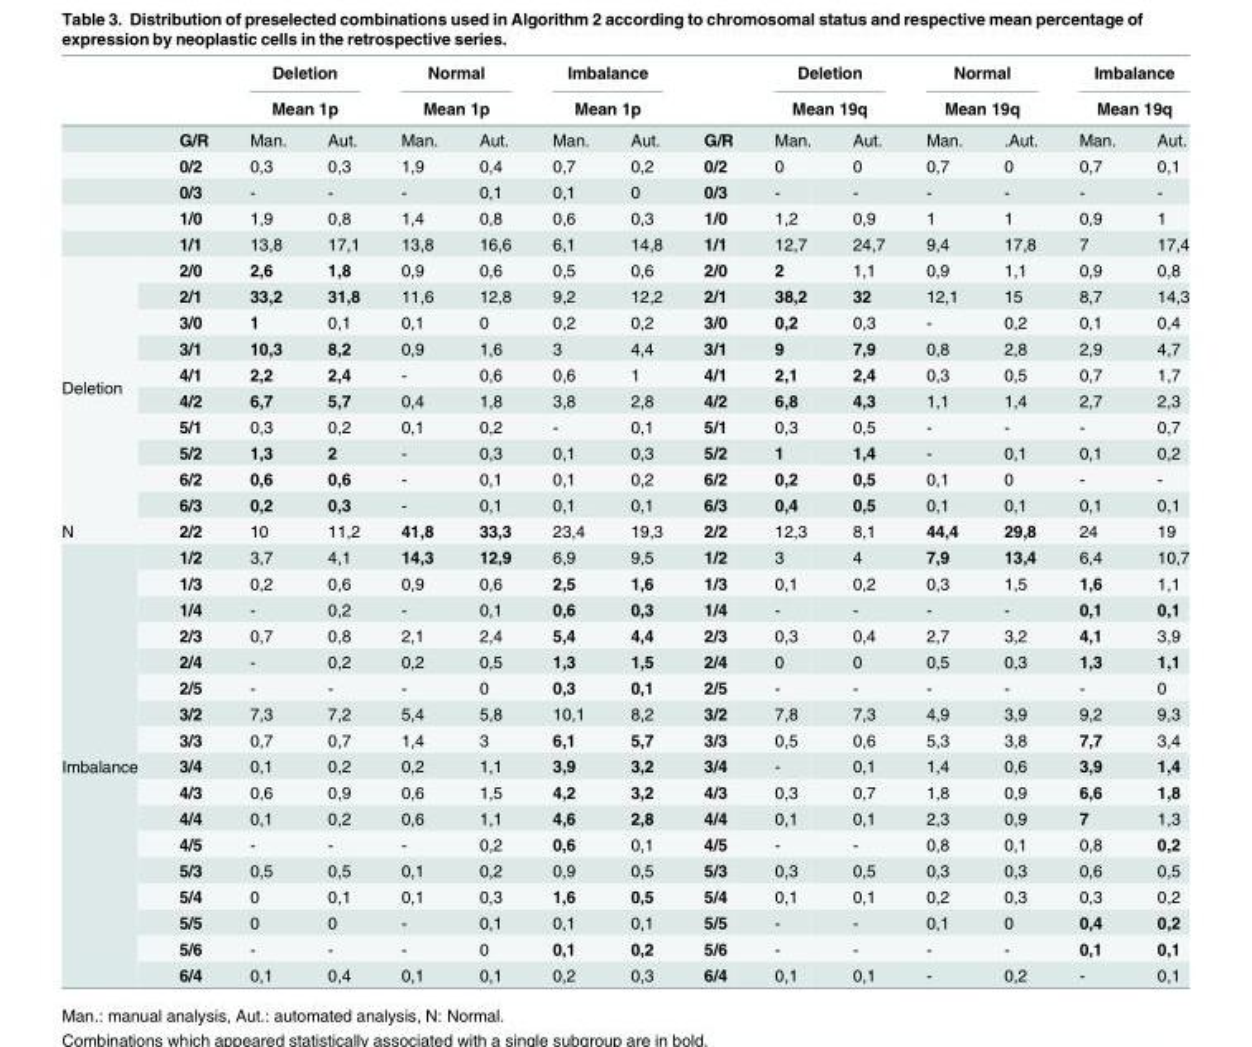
<table><thead><tr><td rowspan="3"></td><td rowspan="3">G/R</td><td rowspan="2" colspan="2">Deletion Mean 1p</td><td rowspan="2" colspan="2">Normal Mean 1p</td><td rowspan="2" colspan="2">Imbalance Mean 1p</td><td rowspan="3">G/R</td><td rowspan="2" colspan="2">Deletion Mean 19q</td><td rowspan="2" colspan="2">Normal Mean 19q</td><td rowspan="2" colspan="2">Imbalance Mean 19q</td></tr><tr></tr><tr><td>Man.</td><td>Aut.</td><td>Man.</td><td>Aut.</td><td>Man.</td><td>Aut.</td><td>Man.</td><td>Aut.</td><td>Man.</td><td>.Aut.</td><td>Man.</td><td>Aut.</td></tr></thead><tbody><tr><td></td><td>0/2</td><td>0,3</td><td>0,3</td><td>1,9</td><td>0,4</td><td>0,7</td><td>0,2</td><td>0/2</td><td>0</td><td>0</td><td>0,7</td><td>0</td><td>0,7</td><td>0,1</td></tr><tr><td></td><td>0/3</td><td>-</td><td>-</td><td>-</td><td>0,1</td><td>0,1</td><td>0</td><td>0/3</td><td>-</td><td>-</td><td>-</td><td>-</td><td>-</td><td>-</td></tr><tr><td></td><td>1/0</td><td>1,9</td><td>0,8</td><td>1,4</td><td>0,8</td><td>0,6</td><td>0,3</td><td>1/0</td><td>1,2</td><td>0,9</td><td>1</td><td>1</td><td>0,9</td><td>1</td></tr><tr><td></td><td>1/1</td><td>13,8</td><td>17,1</td><td>13,8</td><td>16,6</td><td>6,1</td><td>14,8</td><td>1/1</td><td>12,7</td><td>24,7</td><td>9,4</td><td>17,8</td><td>7</td><td>17,4</td></tr><tr><td rowspan="10">Deletion</td><td>2/0</td><td>2,6</td><td>1,8</td><td>0,9</td><td>0,6</td><td>0,5</td><td>0,6</td><td>2/0</td><td>2</td><td>1,1</td><td>0,9</td><td>1,1</td><td>0,9</td><td>0,8</td></tr><tr><td>2/1</td><td>33,2</td><td>31,8</td><td>11,6</td><td>12,8</td><td>9,2</td><td>12,2</td><td>2/1</td><td>38,2</td><td>32</td><td>12,1</td><td>15</td><td>8,7</td><td>14,3</td></tr><tr><td>3/0</td><td>1</td><td>0,1</td><td>0,1</td><td>0</td><td>0,2</td><td>0,2</td><td>3/0</td><td>0,2</td><td>0,3</td><td>-</td><td>0,2</td><td>0,1</td><td>0,4</td></tr><tr><td>3/1</td><td>10,3</td><td>8,2</td><td>0,9</td><td>1,6</td><td>3</td><td>4,4</td><td>3/1</td><td>9</td><td>7,9</td><td>0,8</td><td>2,8</td><td>2,9</td><td>4,7</td></tr><tr><td>4/1</td><td>2,2</td><td>2,4</td><td>-</td><td>0,6</td><td>0,6</td><td>1</td><td>4/1</td><td>2,1</td><td>2,4</td><td>0,3</td><td>0,5</td><td>0,7</td><td>1,7</td></tr><tr><td>4/2</td><td>6,7</td><td>5,7</td><td>0,4</td><td>1,8</td><td>3,8</td><td>2,8</td><td>4/2</td><td>6,8</td><td>4,3</td><td>1,1</td><td>1,4</td><td>2,7</td><td>2,3</td></tr><tr><td>5/1</td><td>0,3</td><td>0,2</td><td>0,1</td><td>0,2</td><td>-</td><td>0,1</td><td>5/1</td><td>0,3</td><td>0,5</td><td>-</td><td>-</td><td>-</td><td>0,7</td></tr><tr><td>5/2</td><td>1,3</td><td>2</td><td>-</td><td>0,3</td><td>0,1</td><td>0,3</td><td>5/2</td><td>1</td><td>1,4</td><td>-</td><td>0,1</td><td>0,1</td><td>0,2</td></tr><tr><td>6/2</td><td>0,6</td><td>0,6</td><td>-</td><td>0,1</td><td>0,1</td><td>0,2</td><td>6/2</td><td>0,2</td><td>0,5</td><td>0,1</td><td>0</td><td>-</td><td>-</td></tr><tr><td>6/3</td><td>0,2</td><td>0,3</td><td>-</td><td>0,1</td><td>0,1</td><td>0,1</td><td>6/3</td><td>0,4</td><td>0,5</td><td>0,1</td><td>0,1</td><td>0,1</td><td>0,1</td></tr><tr><td>N</td><td>2/2</td><td>10</td><td>11,2</td><td>41,8</td><td>33,3</td><td>23,4</td><td>19,3</td><td>2/2</td><td>12,3</td><td>8,1</td><td>44,4</td><td>29,8</td><td>24</td><td>19</td></tr><tr><td rowspan="17">Imbalance</td><td>1/2</td><td>3,7</td><td>4,1</td><td>14,3</td><td>12,9</td><td>6,9</td><td>9,5</td><td>1/2</td><td>3</td><td>4</td><td>7,9</td><td>13,4</td><td>6,4</td><td>10,7</td></tr><tr><td>1/3</td><td>0,2</td><td>0,6</td><td>0,9</td><td>0,6</td><td>2,5</td><td>1,6</td><td>1/3</td><td>0,1</td><td>0,2</td><td>0,3</td><td>1,5</td><td>1,6</td><td>1,1</td></tr><tr><td>1/4</td><td>-</td><td>0,2</td><td>-</td><td>0,1</td><td>0,6</td><td>0,3</td><td>1/4</td><td>-</td><td>-</td><td>-</td><td>-</td><td>0,1</td><td>0,1</td></tr><tr><td>2/3</td><td>0,7</td><td>0,8</td><td>2,1</td><td>2,4</td><td>5,4</td><td>4,4</td><td>2/3</td><td>0,3</td><td>0,4</td><td>2,7</td><td>3,2</td><td>4,1</td><td>3,9</td></tr><tr><td>2/4</td><td>-</td><td>0,2</td><td>0,2</td><td>0,5</td><td>1,3</td><td>1,5</td><td>2/4</td><td>0</td><td>0</td><td>0,5</td><td>0,3</td><td>1,3</td><td>1,1</td></tr><tr><td>2/5</td><td>-</td><td>-</td><td>-</td><td>0</td><td>0,3</td><td>0,1</td><td>2/5</td><td>-</td><td>-</td><td>-</td><td>-</td><td>-</td><td>0</td></tr><tr><td>3/2</td><td>7,3</td><td>7,2</td><td>5,4</td><td>5,8</td><td>10,1</td><td>8,2</td><td>3/2</td><td>7,8</td><td>7,3</td><td>4,9</td><td>3,9</td><td>9,2</td><td>9,3</td></tr><tr><td>3/3</td><td>0,7</td><td>0,7</td><td>1,4</td><td>3</td><td>6,1</td><td>5,7</td><td>3/3</td><td>0,5</td><td>0,6</td><td>5,3</td><td>3,8</td><td>7,7</td><td>3,4</td></tr><tr><td>3/4</td><td>0,1</td><td>0,2</td><td>0,2</td><td>1,1</td><td>3,9</td><td>3,2</td><td>3/4</td><td>-</td><td>0,1</td><td>1,4</td><td>0,6</td><td>3,9</td><td>1,4</td></tr><tr><td>4/3</td><td>0,6</td><td>0,9</td><td>0,6</td><td>1,5</td><td>4,2</td><td>3,2</td><td>4/3</td><td>0,3</td><td>0,7</td><td>1,8</td><td>0,9</td><td>6,6</td><td>1,8</td></tr><tr><td>4/4</td><td>0,1</td><td>0,2</td><td>0,6</td><td>1,1</td><td>4,6</td><td>2,8</td><td>4/4</td><td>0,1</td><td>0,1</td><td>2,3</td><td>0,9</td><td>7</td><td>1,3</td></tr><tr><td>4/5</td><td>-</td><td>-</td><td>-</td><td>0,2</td><td>0,6</td><td>0,1</td><td>4/5</td><td>-</td><td>-</td><td>0,8</td><td>0,1</td><td>0,8</td><td>0,2</td></tr><tr><td>5/3</td><td>0,5</td><td>0,5</td><td>0,1</td><td>0,2</td><td>0,9</td><td>0,5</td><td>5/3</td><td>0,3</td><td>0,5</td><td>0,3</td><td>0,3</td><td>0,6</td><td>0,5</td></tr><tr><td>5/4</td><td>0</td><td>0,1</td><td>0,1</td><td>0,3</td><td>1,6</td><td>0,5</td><td>5/4</td><td>0,1</td><td>0,1</td><td>0,2</td><td>0,3</td><td>0,3</td><td>0,2</td></tr><tr><td>5/5</td><td>0</td><td>0</td><td>-</td><td>0,1</td><td>0,1</td><td>0,1</td><td>5/5</td><td>-</td><td>-</td><td>0,1</td><td>0</td><td>0,4</td><td>0,2</td></tr><tr><td>5/6</td><td>-</td><td>-</td><td>-</td><td>0</td><td>0,1</td><td>0,2</td><td>5/6</td><td>-</td><td>-</td><td>-</td><td>-</td><td>0,1</td><td>0,1</td></tr><tr><td>6/4</td><td>0,1</td><td>0,4</td><td>0,1</td><td>0,1</td><td>0,2</td><td>0,3</td><td>6/4</td><td>0,1</td><td>0,1</td><td>-</td><td>0,2</td><td>-</td><td>0,1</td></tr></tbody></table>